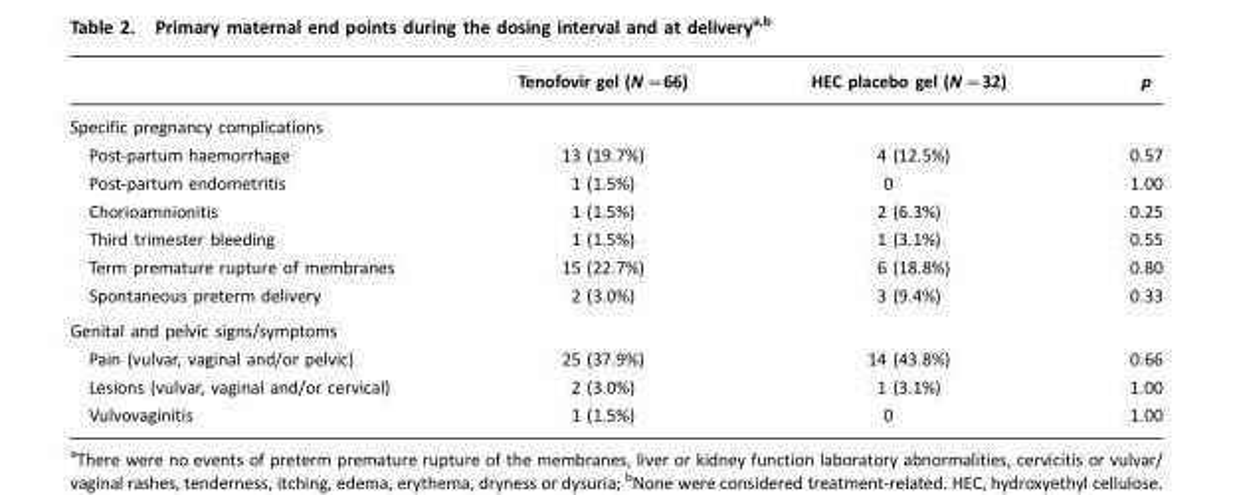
<table><thead><tr><td></td><td>Tenofovir gel (N=66)</td><td>HEC placebo gel (N=32)</td><td>p</td></tr></thead><tbody><tr><td colspan="4">Specific pregnancy complications</td></tr><tr><td>Post-partum haemorrhage</td><td>13 (19.7%)</td><td>4 (12.5%)</td><td>0.57</td></tr><tr><td>Post-partum endometritis</td><td>1 (1.5%)</td><td>0</td><td>1.00</td></tr><tr><td>Chorioamnionitis</td><td>1 (1.5%)</td><td>2 (6.3%)</td><td>0.25</td></tr><tr><td>Third trimester bleeding</td><td>1 (1.5%)</td><td>1 (3.1%)</td><td>0.55</td></tr><tr><td>Term premature rupture of membranes</td><td>15 (22.7%)</td><td>6 (18.8%)</td><td>0.80</td></tr><tr><td>Spontaneous preterm delivery</td><td>2 (3.0%)</td><td>3 (9.4%)</td><td>0.33</td></tr><tr><td colspan="4">Genital and pelvic signs/symptoms</td></tr><tr><td>Pain (vulvar, vaginal and/or pelvic)</td><td>25 (37.9%)</td><td>14 (43.8%)</td><td>0.66</td></tr><tr><td>Lesions (vulvar, vaginal and/or cervical)</td><td>2 (3.0%)</td><td>1 (3.1%)</td><td>1.00</td></tr><tr><td>Vulvovaginitis</td><td>1 (1.5%)</td><td>0</td><td>1.00</td></tr></tbody></table>